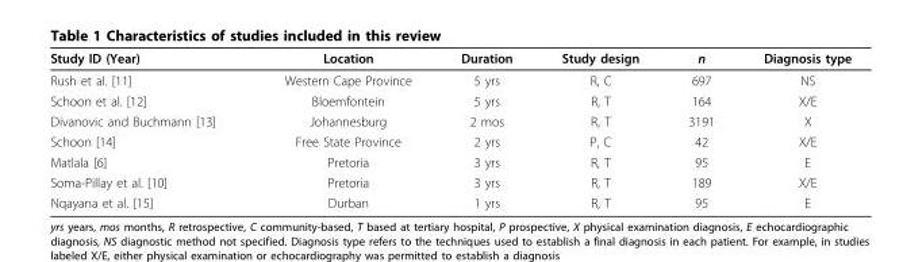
<table><thead><tr><td>Study ID (Year)</td><td>Location</td><td>Duration</td><td>Study design</td><td>n</td><td>Diagnosis type</td></tr></thead><tbody><tr><td>Rush et al. [11]</td><td>Western Cape Province</td><td>5 yrs</td><td>R, C</td><td>697</td><td>NS</td></tr><tr><td>Schoon et al. [12]</td><td>Bloemfontein</td><td>5 yrs</td><td>R, T</td><td>164</td><td>X/E</td></tr><tr><td>Divanovic and Buchmann [13]</td><td>Johannesburg</td><td>2 mos</td><td>R, T</td><td>3191</td><td>X</td></tr><tr><td>Schoon [14]</td><td>Free State Province</td><td>2 yrs</td><td>P, C</td><td>42</td><td>X/E</td></tr><tr><td>Matlala [6]</td><td>Pretoria</td><td>3 yrs</td><td>R, T</td><td>95</td><td>E</td></tr><tr><td>Soma-Pillay et al. [10]</td><td>Pretoria</td><td>3 yrs</td><td>R, T</td><td>189</td><td>X/E</td></tr><tr><td>Nqayana et al. [15]</td><td>Durban</td><td>1 yrs</td><td>R, T</td><td>95</td><td>E</td></tr></tbody></table>